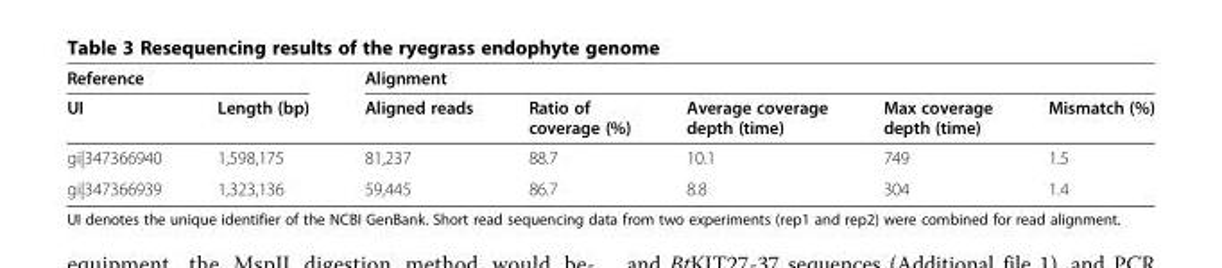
<table><thead><tr><td colspan="2">Reference</td><td colspan="5">Alignment</td></tr><tr><td>UI</td><td>Length (bp)</td><td>Aligned reads</td><td>Ratio of coverage (%)</td><td>Average coverage depth (time)</td><td>Max coverage depth (time)</td><td>Mismatch (%)</td></tr></thead><tbody><tr><td>gi|347366940</td><td>1,598,175</td><td>81,237</td><td>88.7</td><td>10.1</td><td>749</td><td>1.5</td></tr><tr><td>gi|347366939</td><td>1,323,136</td><td>59,445</td><td>86.7</td><td>8.8</td><td>304</td><td>1.4</td></tr></tbody></table>